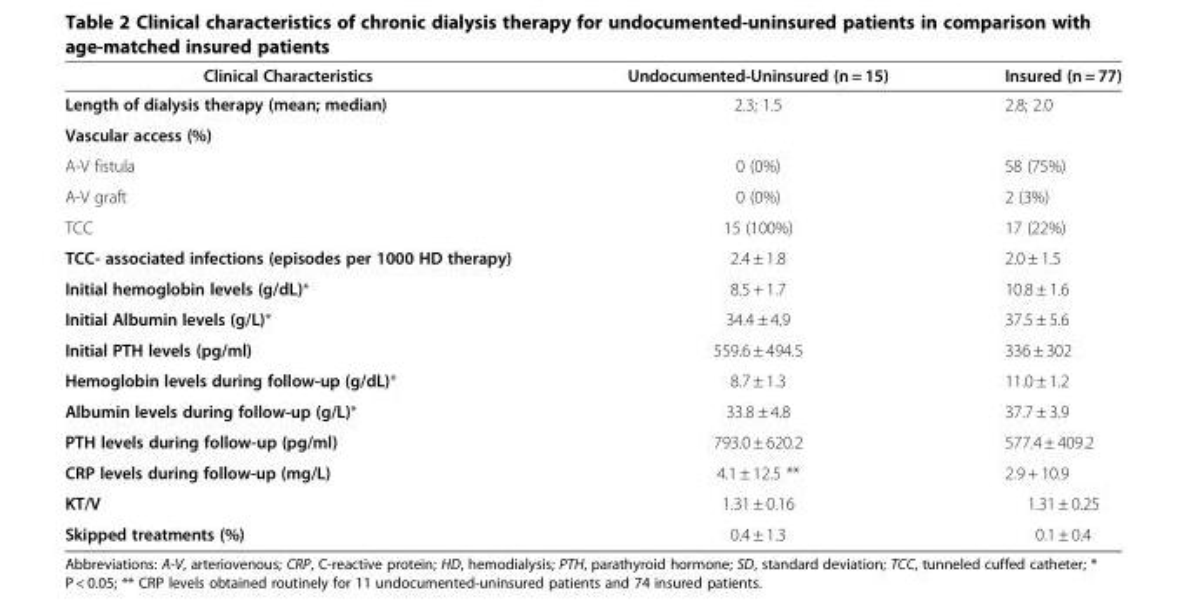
<table><thead><tr><td>Clinical Characteristics</td><td>Undocumented-Uninsured (n = 15)</td><td>Insured (n = 77)</td></tr></thead><tbody><tr><td>Length of dialysis therapy (mean; median)</td><td>2.3; 1.5</td><td>2.8; 2.0</td></tr><tr><td colspan="3">Vascular access (%)</td></tr><tr><td>A-V fistula</td><td>0 (0%)</td><td>58 (75%)</td></tr><tr><td>A-V graft</td><td>0 (0%)</td><td>2 (3%)</td></tr><tr><td>TCC</td><td>15 (100%)</td><td>17 (22%)</td></tr><tr><td>TCC- associated infections (episodes per 1000 HD therapy)</td><td>2.4 ± 1.8</td><td>2.0 ± 1.5</td></tr><tr><td>Initial hemoglobin levels (g/dL)*</td><td>8.5 + 1.7</td><td>10.8 ± 1.6</td></tr><tr><td>Initial Albumin levels (g/L)*</td><td>34.4 ± 4.9</td><td>37.5 ± 5.6</td></tr><tr><td>Initial PTH levels (pg/ml)</td><td>559.6 ± 494.5</td><td>336 ± 302</td></tr><tr><td>Hemoglobin levels during follow-up (g/dL)*</td><td>8.7 ± 1.3</td><td>11.0 ± 1.2</td></tr><tr><td>Albumin levels during follow-up (g/L)*</td><td>33.8 ± 4.8</td><td>37.7 ± 3.9</td></tr><tr><td>PTH levels during follow-up (pg/ml)</td><td>793.0 ± 620.2</td><td>577.4 ± 409.2</td></tr><tr><td>CRP levels during follow-up (mg/L)</td><td>4.1 ± 12.5 **</td><td>2.9 + 10.9</td></tr><tr><td>KT/V</td><td>1.31 ± 0.16</td><td>1.31 ± 0.25</td></tr><tr><td>Skipped treatments (%)</td><td>0.4 ± 1.3</td><td>0.1 ± 0.4</td></tr></tbody></table>